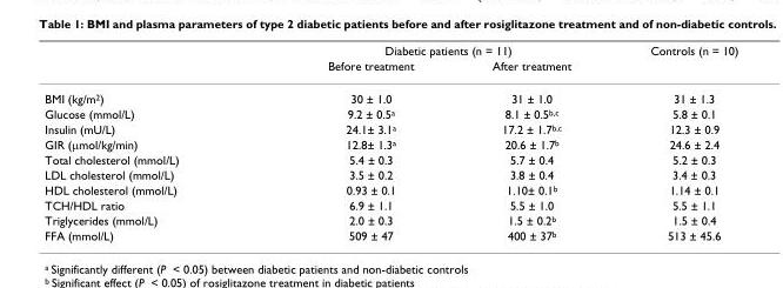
<table><thead><tr><td rowspan="2"></td><td colspan="2">Diabetic patients (n = 11)</td><td rowspan="2">Controls (n = 10)</td></tr><tr><td>Before treatment</td><td>After treatment</td></tr></thead><tbody><tr><td>BMI (kg/m<sup>2</sup>)</td><td>30 ± 1.0</td><td>31 ± 1.0</td><td>31 ± 1.3</td></tr><tr><td>Glucose (mmol/L)</td><td>9.2 ± 0.5<sup>a</sup></td><td>8.1 ± 0.5<sup>b,c</sup></td><td>5.8 ± 0.1</td></tr><tr><td>Insulin (mU/L)</td><td>24.1± 3.1<sup>a</sup></td><td>17.2 ± 1.7<sup>b,c</sup></td><td>12.3 ± 0.9</td></tr><tr><td>GIR (μmol/kg/min)</td><td>12.8± 1.3<sup>a</sup></td><td>20.6 ± 1.7<sup>b</sup></td><td>24.6 ± 2.4</td></tr><tr><td>Total cholesterol (mmol/L)</td><td>5.4 ± 0.3</td><td>5.7 ± 0.4</td><td>5.2 ± 0.3</td></tr><tr><td>LDL cholesterol (mmol/L)</td><td>3.5 ± 0.2</td><td>3.8 ± 0.4</td><td>3.4 ± 0.3</td></tr><tr><td>HDL cholesterol (mmol/L)</td><td>0.93 ± 0.1</td><td>1.10± 0.1<sup>b</sup></td><td>1.14 ± 0.1</td></tr><tr><td>TCH/HDL ratio</td><td>6.9 ± 1.1</td><td>5.5 ± 1.0</td><td>5.5 ± 1.1</td></tr><tr><td>Triglycerides (mmol/L)</td><td>2.0 ± 0.3</td><td>1.5 ± 0.2<sup>b</sup></td><td>1.5 ± 0.4</td></tr><tr><td>FFA (mmol/L)</td><td>509 ± 47</td><td>400 ± 37<sup>b</sup></td><td>513 ± 45.6</td></tr></tbody></table>